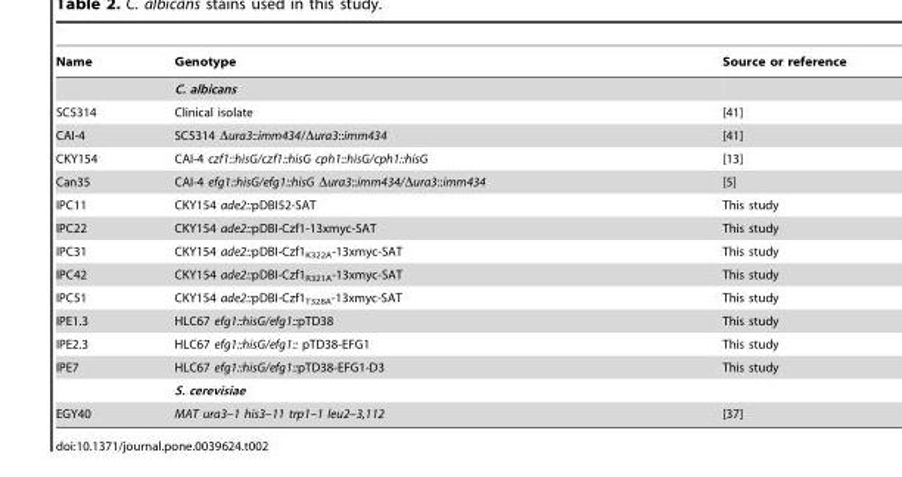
<table><thead><tr><td>Name</td><td>Genotype</td><td>Source or reference</td></tr></thead><tbody><tr><td></td><td>C. albicans</td><td></td></tr><tr><td>SC5314</td><td>Clinical isolate</td><td>[41]</td></tr><tr><td>CAI-4</td><td>SC5314 Δura3::imm434/Δura3::imm434</td><td>[41]</td></tr><tr><td>CKY154</td><td>CAI-4 czf1::hisG/czf1::hisG cph1::hisG/cph1::hisG</td><td>[13]</td></tr><tr><td>Can35</td><td>CAI-4 efg1::hisG/efg1::hisG Δura3::imm434/Δura3::imm434</td><td>[5]</td></tr><tr><td>IPC11</td><td>CKY154 ade2::pDBI52-SAT</td><td>This study</td></tr><tr><td>IPC22</td><td>CKY154 ade2::pDBI-Czf1-13xmyc-SAT</td><td>This study</td></tr><tr><td>IPC31</td><td>CKY154 ade2::pDBI-Czf1<sub>K322A</sub>-13xmyc-SAT</td><td>This study</td></tr><tr><td>IPC42</td><td>CKY154 ade2::pDBI-Czf1<sub>R321A</sub>-13xmyc-SAT</td><td>This study</td></tr><tr><td>IPC51</td><td>CKY154 ade2::pDBI-Czf1<sub>T328A</sub>-13xmyc-SAT</td><td>This study</td></tr><tr><td>IPE1.3</td><td>HLC67 efg1::hisG/efg1::pTD38</td><td>This study</td></tr><tr><td>IPE2.3</td><td>HLC67 efg1::hisG/efg1:: pTD38-EFG1</td><td>This study</td></tr><tr><td rowspan="2">IPE7</td><td>HLC67 efg1::hisG/efg1::pTD38-EFG1-D3</td><td>This study</td></tr><tr><td>S. cerevisiae</td><td></td></tr><tr><td>EGY40</td><td>MAT ura3–1 his3–11 trp1–1 leu2–3,112</td><td>[37]</td></tr></tbody></table>